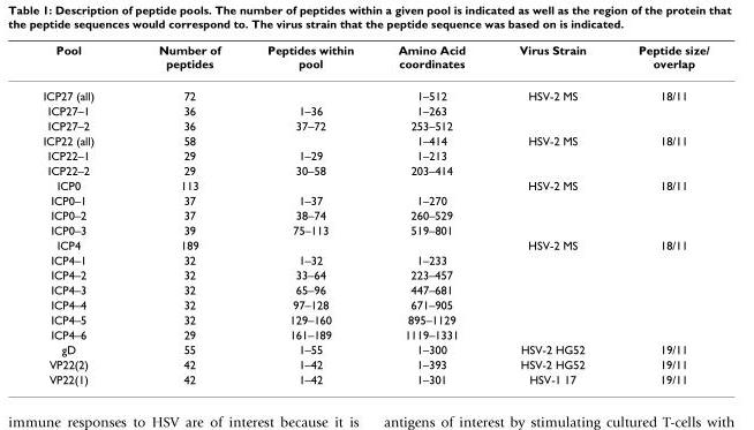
<table><thead><tr><td>Pool</td><td>Number of peptides</td><td>Peptides within pool</td><td>Amino Acid coordinates</td><td>Virus Strain</td><td>Peptide size/ overlap</td></tr></thead><tbody><tr><td>ICP27 (all)</td><td>72</td><td></td><td>1–512</td><td>HSV-2 MS</td><td>18/11</td></tr><tr><td>ICP27–1</td><td>36</td><td>1–36</td><td>1–263</td><td></td><td></td></tr><tr><td>ICP27–2</td><td>36</td><td>37–72</td><td>253–512</td><td></td><td></td></tr><tr><td>ICP22 (all)</td><td>58</td><td></td><td>1–414</td><td>HSV-2 MS</td><td>18/11</td></tr><tr><td>ICP22–1</td><td>29</td><td>1–29</td><td>1–213</td><td></td><td></td></tr><tr><td>ICP22–2</td><td>29</td><td>30–58</td><td>203–414</td><td></td><td></td></tr><tr><td>ICP0</td><td>113</td><td></td><td></td><td>HSV-2 MS</td><td>18/11</td></tr><tr><td>ICP0–1</td><td>37</td><td>1–37</td><td>1–270</td><td></td><td></td></tr><tr><td>ICP0–2</td><td>37</td><td>38–74</td><td>260–529</td><td></td><td></td></tr><tr><td>ICP0–3</td><td>39</td><td>75–113</td><td>519–801</td><td></td><td></td></tr><tr><td>ICP4</td><td>189</td><td></td><td></td><td>HSV-2 MS</td><td>18/11</td></tr><tr><td>ICP4–1</td><td>32</td><td>1–32</td><td>1–233</td><td></td><td></td></tr><tr><td>ICP4–2</td><td>32</td><td>33–64</td><td>223–457</td><td></td><td></td></tr><tr><td>ICP4–3</td><td>32</td><td>65–96</td><td>447–681</td><td></td><td></td></tr><tr><td>ICP4–4</td><td>32</td><td>97–128</td><td>671–905</td><td></td><td></td></tr><tr><td>ICP4–5</td><td>32</td><td>129–160</td><td>895–1129</td><td></td><td></td></tr><tr><td>ICP4–6</td><td>29</td><td>161–189</td><td>1119–1331</td><td></td><td></td></tr><tr><td>gD</td><td>55</td><td>1–55</td><td>1–300</td><td>HSV-2 HG52</td><td>19/11</td></tr><tr><td>VP22(2)</td><td>42</td><td>1–42</td><td>1–393</td><td>HSV-2 HG52</td><td>19/11</td></tr><tr><td>VP22(1)</td><td>42</td><td>1–42</td><td>1–301</td><td>HSV-1 17</td><td>19/11</td></tr></tbody></table>